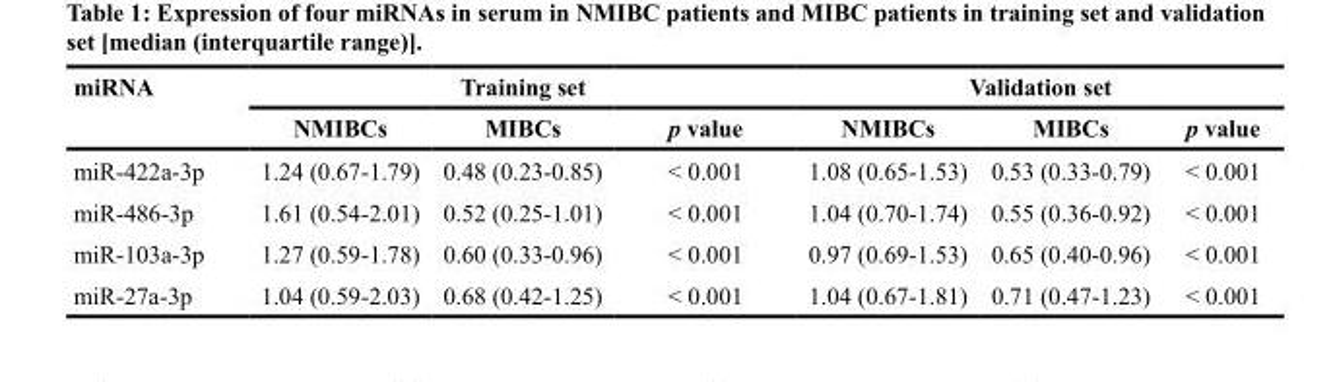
<table><thead><tr><td rowspan="2">miRNA</td><td colspan="3">Training set</td><td colspan="3">Validation set</td></tr><tr><td>NMIBCs</td><td>MIBCs</td><td>p value</td><td>NMIBCs</td><td>MIBCs</td><td>p value</td></tr></thead><tbody><tr><td>miR-422a-3p</td><td>1.24 (0.67-1.79)</td><td>0.48 (0.23-0.85)</td><td>&lt; 0.001</td><td>1.08 (0.65-1.53)</td><td>0.53 (0.33-0.79)</td><td>&lt; 0.001</td></tr><tr><td>miR-486-3p</td><td>1.61 (0.54-2.01)</td><td>0.52 (0.25-1.01)</td><td>&lt; 0.001</td><td>1.04 (0.70-1.74)</td><td>0.55 (0.36-0.92)</td><td>&lt; 0.001</td></tr><tr><td>miR-103a-3p</td><td>1.27 (0.59-1.78)</td><td>0.60 (0.33-0.96)</td><td>&lt; 0.001</td><td>0.97 (0.69-1.53)</td><td>0.65 (0.40-0.96)</td><td>&lt; 0.001</td></tr><tr><td>miR-27a-3p</td><td>1.04 (0.59-2.03)</td><td>0.68 (0.42-1.25)</td><td>&lt; 0.001</td><td>1.04 (0.67-1.81)</td><td>0.71 (0.47-1.23)</td><td>&lt; 0.001</td></tr></tbody></table>